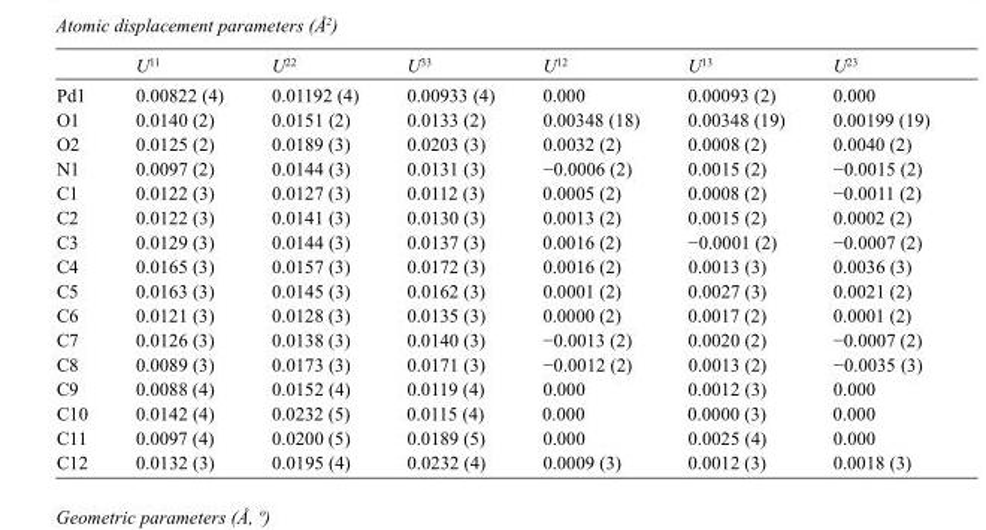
<table><thead><tr><td></td><td>U<sup>11</sup></td><td>U<sup>22</sup></td><td>U<sup>33</sup></td><td>U<sup>12</sup></td><td>U<sup>13</sup></td><td>U<sup>23</sup></td></tr></thead><tbody><tr><td>Pd1</td><td>0.00822 (4)</td><td>0.01192 (4)</td><td>0.00933 (4)</td><td>0.000</td><td>0.00093 (2)</td><td>0.000</td></tr><tr><td>O1</td><td>0.0140 (2)</td><td>0.0151 (2)</td><td>0.0133 (2)</td><td>0.00348 (18)</td><td>0.00348 (19)</td><td>0.00199 (19)</td></tr><tr><td>O2</td><td>0.0125 (2)</td><td>0.0189 (3)</td><td>0.0203 (3)</td><td>0.0032 (2)</td><td>0.0008 (2)</td><td>0.0040 (2)</td></tr><tr><td>N1</td><td>0.0097 (2)</td><td>0.0144 (3)</td><td>0.0131 (3)</td><td>−0.0006 (2)</td><td>0.0015 (2)</td><td>−0.0015 (2)</td></tr><tr><td>C1</td><td>0.0122 (3)</td><td>0.0127 (3)</td><td>0.0112 (3)</td><td>0.0005 (2)</td><td>0.0008 (2)</td><td>−0.0011 (2)</td></tr><tr><td>C2</td><td>0.0122 (3)</td><td>0.0141 (3)</td><td>0.0130 (3)</td><td>0.0013 (2)</td><td>0.0015 (2)</td><td>0.0002 (2)</td></tr><tr><td>C3</td><td>0.0129 (3)</td><td>0.0144 (3)</td><td>0.0137 (3)</td><td>0.0016 (2)</td><td>−0.0001 (2)</td><td>−0.0007 (2)</td></tr><tr><td>C4</td><td>0.0165 (3)</td><td>0.0157 (3)</td><td>0.0172 (3)</td><td>0.0016 (2)</td><td>0.0013 (3)</td><td>0.0036 (3)</td></tr><tr><td>C5</td><td>0.0163 (3)</td><td>0.0145 (3)</td><td>0.0162 (3)</td><td>0.0001 (2)</td><td>0.0027 (3)</td><td>0.0021 (2)</td></tr><tr><td>C6</td><td>0.0121 (3)</td><td>0.0128 (3)</td><td>0.0135 (3)</td><td>0.0000 (2)</td><td>0.0017 (2)</td><td>0.0001 (2)</td></tr><tr><td>C7</td><td>0.0126 (3)</td><td>0.0138 (3)</td><td>0.0140 (3)</td><td>−0.0013 (2)</td><td>0.0020 (2)</td><td>−0.0007 (2)</td></tr><tr><td>C8</td><td>0.0089 (3)</td><td>0.0173 (3)</td><td>0.0171 (3)</td><td>−0.0012 (2)</td><td>0.0013 (2)</td><td>−0.0035 (3)</td></tr><tr><td>C9</td><td>0.0088 (4)</td><td>0.0152 (4)</td><td>0.0119 (4)</td><td>0.000</td><td>0.0012 (3)</td><td>0.000</td></tr><tr><td>C10</td><td>0.0142 (4)</td><td>0.0232 (5)</td><td>0.0115 (4)</td><td>0.000</td><td>0.0000 (3)</td><td>0.000</td></tr><tr><td>C11</td><td>0.0097 (4)</td><td>0.0200 (5)</td><td>0.0189 (5)</td><td>0.000</td><td>0.0025 (4)</td><td>0.000</td></tr><tr><td>C12</td><td>0.0132 (3)</td><td>0.0195 (4)</td><td>0.0232 (4)</td><td>0.0009 (3)</td><td>0.0012 (3)</td><td>0.0018 (3)</td></tr></tbody></table>